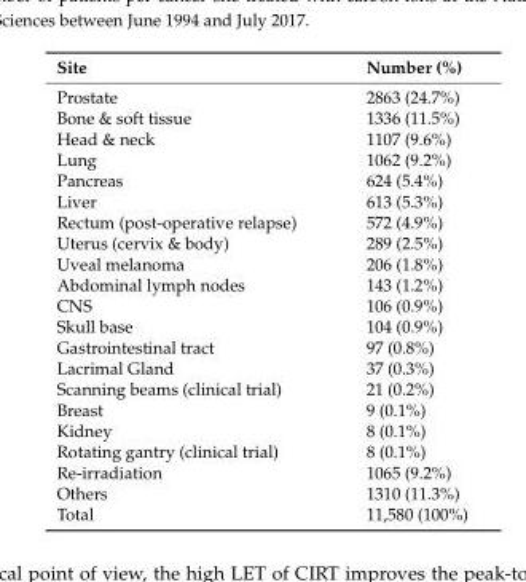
<table><thead><tr><td>Site</td><td>Number (%)</td></tr></thead><tbody><tr><td>Prostate</td><td>2863 (24.7%)</td></tr><tr><td>Bone &amp; soft tissue</td><td>1336 (11.5%)</td></tr><tr><td>Head &amp; neck</td><td>1107 (9.6%)</td></tr><tr><td>Lung</td><td>1062 (9.2%)</td></tr><tr><td>Pancreas</td><td>624 (5.4%)</td></tr><tr><td>Liver</td><td>613 (5.3%)</td></tr><tr><td>Rectum (post-operative relapse)</td><td>572 (4.9%)</td></tr><tr><td>Uterus (cervix &amp; body)</td><td>289 (2.5%)</td></tr><tr><td>Uveal melanoma</td><td>206 (1.8%)</td></tr><tr><td>Abdominal lymph nodes</td><td>143 (1.2%)</td></tr><tr><td>CNS</td><td>106 (0.9%)</td></tr><tr><td>Skull base</td><td>104 (0.9%)</td></tr><tr><td>Gastrointestinal tract</td><td>97 (0.8%)</td></tr><tr><td>Lacrimal Gland</td><td>37 (0.3%)</td></tr><tr><td>Scanning beams (clinical trial)</td><td>21 (0.2%)</td></tr><tr><td>Breast</td><td>9 (0.1%)</td></tr><tr><td>Kidney</td><td>8 (0.1%)</td></tr><tr><td>Rotating gantry (clinical trial)</td><td>8 (0.1%)</td></tr><tr><td>Re-irradiation</td><td>1065 (9.2%)</td></tr><tr><td>Others</td><td>1310 (11.3%)</td></tr><tr><td>Total</td><td>11,580 (100%)</td></tr></tbody></table>